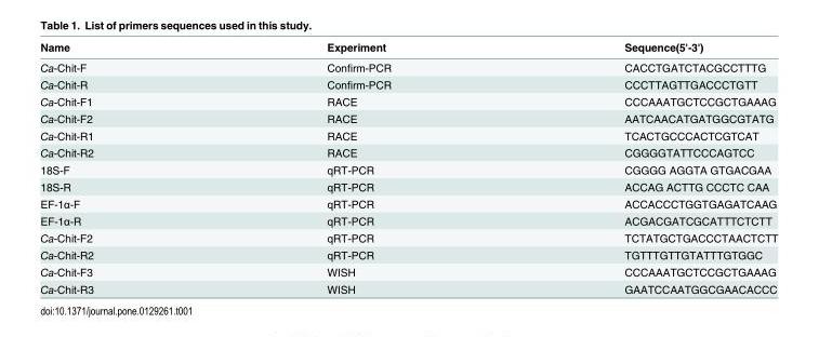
<table><thead><tr><td>Name</td><td>Experiment</td><td>Sequence(5&#x27;-3&#x27;)</td></tr></thead><tbody><tr><td>Ca-Chit-F</td><td>Confirm-PCR</td><td>CACCTGATCTACGCCTTTG</td></tr><tr><td>Ca-Chit-R</td><td>Confirm-PCR</td><td>CCCTTAGTTGACCCTGTT</td></tr><tr><td>Ca-Chit-F1</td><td>RACE</td><td>CCCAAATGCTCCGCTGAAAG</td></tr><tr><td>Ca-Chit-F2</td><td>RACE</td><td>AATCAACATGATGGCGTATG</td></tr><tr><td>Ca-Chit-R1</td><td>RACE</td><td>TCACTGCCCACTCGTCAT</td></tr><tr><td>Ca-Chit-R2</td><td>RACE</td><td>CGGGGTATTCCCAGTCC</td></tr><tr><td>18S-F</td><td>qRT-PCR</td><td>CGGGG AGGTA GTGACGAA</td></tr><tr><td>18S-R</td><td>qRT-PCR</td><td>ACCAG ACTTG CCCTC CAA</td></tr><tr><td>EF-1α-F</td><td>qRT-PCR</td><td>ACCACCCTGGTGAGATCAAG</td></tr><tr><td>EF-1α-R</td><td>qRT-PCR</td><td>ACGACGATCGCATTTCTCTT</td></tr><tr><td>Ca-Chit-F2</td><td>qRT-PCR</td><td>TCTATGCTGACCCTAACTCTT</td></tr><tr><td>Ca-Chit-R2</td><td>qRT-PCR</td><td>TGTTTGTTGTATTTGTGGC</td></tr><tr><td>Ca-Chit-F3</td><td>WISH</td><td>CCCAAATGCTCCGCTGAAAG</td></tr><tr><td>Ca-Chit-R3</td><td>WISH</td><td>GAATCCAATGGCGAACACCC</td></tr></tbody></table>